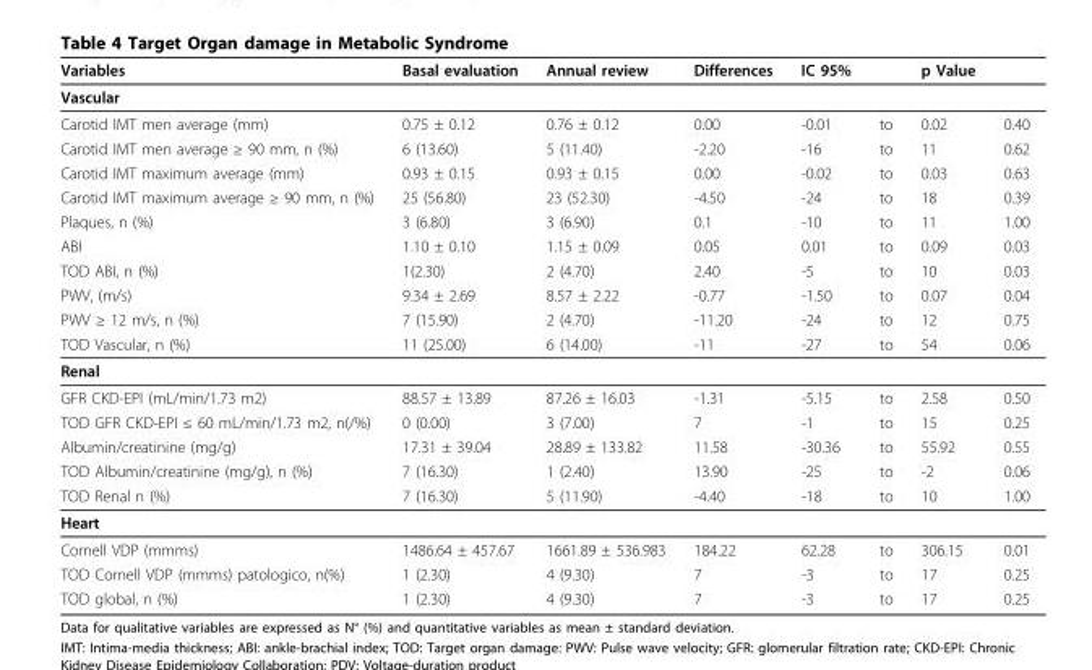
<table><thead><tr><td>Variables</td><td>Basal evaluation</td><td>Annual review</td><td>Differences</td><td>IC 95%</td><td></td><td>p Value</td><td></td></tr></thead><tbody><tr><td colspan="8">Vascular</td></tr><tr><td>Carotid IMT men average (mm)</td><td>0.75 ± 0.12</td><td>0.76 ± 0.12</td><td>0.00</td><td>-0.01</td><td>to</td><td>0.02</td><td>0.40</td></tr><tr><td>Carotid IMT men average ≥ 90 mm, n (%)</td><td>6 (13.60)</td><td>5 (11.40)</td><td>-2.20</td><td>-16</td><td>to</td><td>11</td><td>0.62</td></tr><tr><td>Carotid IMT maximum average (mm)</td><td>0.93 ± 0.15</td><td>0.93 ± 0.15</td><td>0.00</td><td>-0.02</td><td>to</td><td>0.03</td><td>0.63</td></tr><tr><td>Carotid IMT maximum average ≥ 90 mm, n (%)</td><td>25 (56.80)</td><td>23 (52.30)</td><td>-4.50</td><td>-24</td><td>to</td><td>18</td><td>0.39</td></tr><tr><td>Plaques, n (%)</td><td>3 (6.80)</td><td>3 (6.90)</td><td>0.1</td><td>-10</td><td>to</td><td>11</td><td>1.00</td></tr><tr><td>ABI</td><td>1.10 ± 0.10</td><td>1.15 ± 0.09</td><td>0.05</td><td>0.01</td><td>to</td><td>0.09</td><td>0.03</td></tr><tr><td>TOD ABI, n (%)</td><td>1(2.30)</td><td>2 (4.70)</td><td>2.40</td><td>-5</td><td>to</td><td>10</td><td>0.03</td></tr><tr><td>PWV, (m/s)</td><td>9.34 ± 2.69</td><td>8.57 ± 2.22</td><td>-0.77</td><td>-1.50</td><td>to</td><td>0.07</td><td>0.04</td></tr><tr><td>PWV ≥ 12 m/s, n (%)</td><td>7 (15.90)</td><td>2 (4.70)</td><td>-11.20</td><td>-24</td><td>to</td><td>12</td><td>0.75</td></tr><tr><td>TOD Vascular, n (%)</td><td>11 (25.00)</td><td>6 (14.00)</td><td>-11</td><td>-27</td><td>to</td><td>54</td><td>0.06</td></tr><tr><td colspan="8">Renal</td></tr><tr><td>GFR CKD-EPI (mL/min/1.73 m2)</td><td>88.57 ± 13.89</td><td>87.26 ± 16.03</td><td>-1.31</td><td>-5.15</td><td>to</td><td>2.58</td><td>0.50</td></tr><tr><td>TOD GFR CKD-EPI ≤ 60 mL/min/1.73 m2, n(/%)</td><td>0 (0.00)</td><td>3 (7.00)</td><td>7</td><td>-1</td><td>to</td><td>15</td><td>0.25</td></tr><tr><td>Albumin/creatinine (mg/g)</td><td>17.31 ± 39.04</td><td>28.89 ± 133.82</td><td>11.58</td><td>-30.36</td><td>to</td><td>55.92</td><td>0.55</td></tr><tr><td>TOD Albumin/creatinine (mg/g), n (%)</td><td>7 (16.30)</td><td>1 (2.40)</td><td>13.90</td><td>-25</td><td>to</td><td>-2</td><td>0.06</td></tr><tr><td>TOD Renal n (%)</td><td>7 (16.30)</td><td>5 (11.90)</td><td>-4.40</td><td>-18</td><td>to</td><td>10</td><td>1.00</td></tr><tr><td colspan="8">Heart</td></tr><tr><td>Cornell VDP (mmms)</td><td>1486.64 ± 457.67</td><td>1661.89 ± 536.983</td><td>184.22</td><td>62.28</td><td>to</td><td>306.15</td><td>0.01</td></tr><tr><td>TOD Cornell VDP (mmms) patologico, n(%)</td><td>1 (2.30)</td><td>4 (9.30)</td><td>7</td><td>-3</td><td>to</td><td>17</td><td>0.25</td></tr><tr><td>TOD global, n (%)</td><td>1 (2.30)</td><td>4 (9.30)</td><td>7</td><td>-3</td><td>to</td><td>17</td><td>0.25</td></tr></tbody></table>